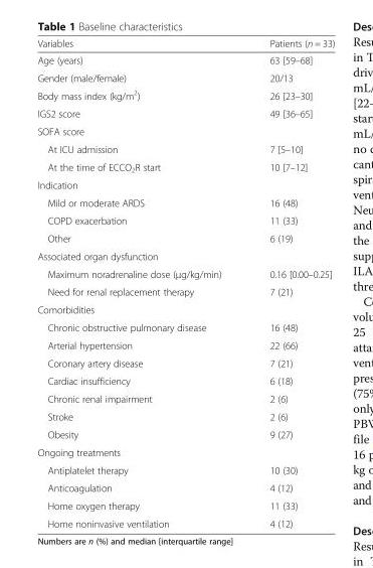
<table><thead><tr><td>Variables</td><td>Patients (n = 33)</td></tr></thead><tbody><tr><td>Age (years)</td><td>63 [59–68]</td></tr><tr><td>Gender (male/female)</td><td>20/13</td></tr><tr><td>Body mass index (kg/m<sup>2</sup>)</td><td>26 [23–30]</td></tr><tr><td>IGS2 score</td><td>49 [36–65]</td></tr><tr><td colspan="2">SOFA score</td></tr><tr><td>At ICU admission</td><td>7 [5–10]</td></tr><tr><td>At the time of ECCO<sub>2</sub>R start</td><td>10 [7–12]</td></tr><tr><td colspan="2">Indication</td></tr><tr><td>Mild or moderate ARDS</td><td>16 (48)</td></tr><tr><td>COPD exacerbation</td><td>11 (33)</td></tr><tr><td>Other</td><td>6 (19)</td></tr><tr><td colspan="2">Associated organ dysfunction</td></tr><tr><td>Maximum noradrenaline dose (μg/kg/min)</td><td>0.16 [0.00–0.25]</td></tr><tr><td>Need for renal replacement therapy</td><td>7 (21)</td></tr><tr><td colspan="2">Comorbidities</td></tr><tr><td>Chronic obstructive pulmonary disease</td><td>16 (48)</td></tr><tr><td>Arterial hypertension</td><td>22 (66)</td></tr><tr><td>Coronary artery disease</td><td>7 (21)</td></tr><tr><td>Cardiac insufficiency</td><td>6 (18)</td></tr><tr><td>Chronic renal impairment</td><td>2 (6)</td></tr><tr><td>Stroke</td><td>2 (6)</td></tr><tr><td>Obesity</td><td>9 (27)</td></tr><tr><td colspan="2">Ongoing treatments</td></tr><tr><td>Antiplatelet therapy</td><td>10 (30)</td></tr><tr><td>Anticoagulation</td><td>4 (12)</td></tr><tr><td>Home oxygen therapy</td><td>11 (33)</td></tr><tr><td>Home noninvasive ventilation</td><td>4 (12)</td></tr></tbody></table>